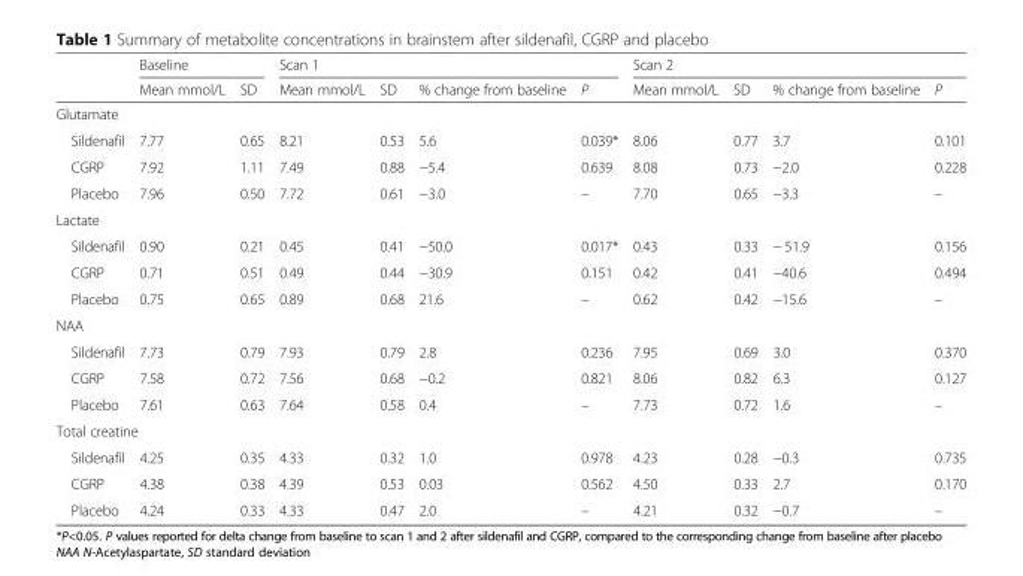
<table><thead><tr><td rowspan="2"></td><td colspan="2">Baseline</td><td colspan="4">Scan 1</td><td colspan="4">Scan 2</td></tr><tr><td>Mean mmol/L</td><td>SD</td><td>Mean mmol/L</td><td>SD</td><td>% change from baseline</td><td>P</td><td>Mean mmol/L</td><td>SD</td><td>% change from baseline</td><td>P</td></tr></thead><tbody><tr><td colspan="11">Glutamate</td></tr><tr><td>Sildenafil</td><td>7.77</td><td>0.65</td><td>8.21</td><td>0.53</td><td>5.6</td><td>0.039*</td><td>8.06</td><td>0.77</td><td>3.7</td><td>0.101</td></tr><tr><td>CGRP</td><td>7.92</td><td>1.11</td><td>7.49</td><td>0.88</td><td>−5.4</td><td>0.639</td><td>8.08</td><td>0.73</td><td>−2.0</td><td>0.228</td></tr><tr><td>Placebo</td><td>7.96</td><td>0.50</td><td>7.72</td><td>0.61</td><td>−3.0</td><td>–</td><td>7.70</td><td>0.65</td><td>−3.3</td><td>–</td></tr><tr><td colspan="11">Lactate</td></tr><tr><td>Sildenafil</td><td>0.90</td><td>0.21</td><td>0.45</td><td>0.41</td><td>−50.0</td><td>0.017*</td><td>0.43</td><td>0.33</td><td>− 51.9</td><td>0.156</td></tr><tr><td>CGRP</td><td>0.71</td><td>0.51</td><td>0.49</td><td>0.44</td><td>−30.9</td><td>0.151</td><td>0.42</td><td>0.41</td><td>−40.6</td><td>0.494</td></tr><tr><td>Placebo</td><td>0.75</td><td>0.65</td><td>0.89</td><td>0.68</td><td>21.6</td><td>–</td><td>0.62</td><td>0.42</td><td>−15.6</td><td>–</td></tr><tr><td colspan="11">NAA</td></tr><tr><td>Sildenafil</td><td>7.73</td><td>0.79</td><td>7.93</td><td>0.79</td><td>2.8</td><td>0.236</td><td>7.95</td><td>0.69</td><td>3.0</td><td>0.370</td></tr><tr><td>CGRP</td><td>7.58</td><td>0.72</td><td>7.56</td><td>0.68</td><td>−0.2</td><td>0.821</td><td>8.06</td><td>0.82</td><td>6.3</td><td>0.127</td></tr><tr><td>Placebo</td><td>7.61</td><td>0.63</td><td>7.64</td><td>0.58</td><td>0.4</td><td>–</td><td>7.73</td><td>0.72</td><td>1.6</td><td>–</td></tr><tr><td colspan="11">Total creatine</td></tr><tr><td>Sildenafil</td><td>4.25</td><td>0.35</td><td>4.33</td><td>0.32</td><td>1.0</td><td>0.978</td><td>4.23</td><td>0.28</td><td>−0.3</td><td>0.735</td></tr><tr><td>CGRP</td><td>4.38</td><td>0.38</td><td>4.39</td><td>0.53</td><td>0.03</td><td>0.562</td><td>4.50</td><td>0.33</td><td>2.7</td><td>0.170</td></tr><tr><td>Placebo</td><td>4.24</td><td>0.33</td><td>4.33</td><td>0.47</td><td>2.0</td><td>–</td><td>4.21</td><td>0.32</td><td>−0.7</td><td>–</td></tr></tbody></table>